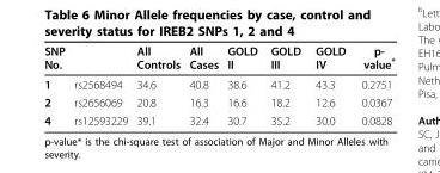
<table><thead><tr><td>SNP No.</td><td></td><td>All Controls</td><td>All Cases</td><td>GOLD II</td><td>GOLD III</td><td>GOLD IV</td><td>p- value*</td></tr></thead><tbody><tr><td>1</td><td>rs2568494</td><td>34.6</td><td>40.8</td><td>38.6</td><td>41.2</td><td>43.3</td><td>0.2751</td></tr><tr><td>2</td><td>rs2656069</td><td>20.8</td><td>16.3</td><td>16.6</td><td>18.2</td><td>12.6</td><td>0.0367</td></tr><tr><td>4</td><td>rs12593229</td><td>39.1</td><td>32.4</td><td>30.7</td><td>35.2</td><td>30.0</td><td>0.0828</td></tr></tbody></table>